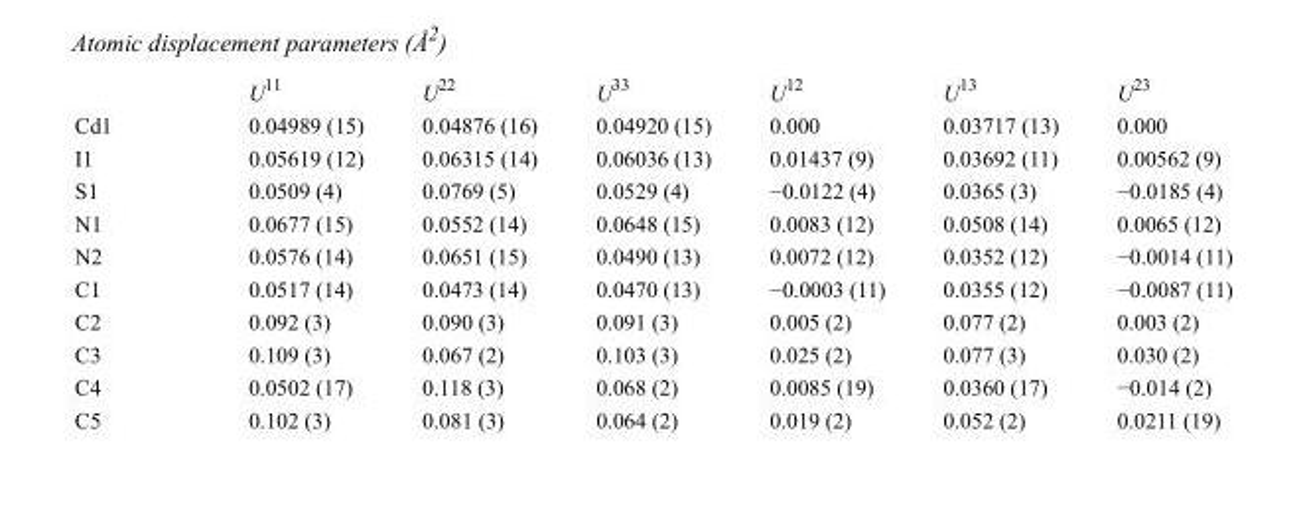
<table><thead><tr><td></td><td>U<sup>11</sup></td><td>U<sup>22</sup></td><td>U<sup>33</sup></td><td>U<sup>12</sup></td><td>U<sup>13</sup></td><td>U<sup>23</sup></td></tr></thead><tbody><tr><td>Cd1</td><td>0.04989 (15)</td><td>0.04876 (16)</td><td>0.04920 (15)</td><td>0.000</td><td>0.03717 (13)</td><td>0.000</td></tr><tr><td>I1</td><td>0.05619 (12)</td><td>0.06315 (14)</td><td>0.06036 (13)</td><td>0.01437 (9)</td><td>0.03692 (11)</td><td>0.00562 (9)</td></tr><tr><td>S1</td><td>0.0509 (4)</td><td>0.0769 (5)</td><td>0.0529 (4)</td><td>−0.0122 (4)</td><td>0.0365 (3)</td><td>−0.0185 (4)</td></tr><tr><td>N1</td><td>0.0677 (15)</td><td>0.0552 (14)</td><td>0.0648 (15)</td><td>0.0083 (12)</td><td>0.0508 (14)</td><td>0.0065 (12)</td></tr><tr><td>N2</td><td>0.0576 (14)</td><td>0.0651 (15)</td><td>0.0490 (13)</td><td>0.0072 (12)</td><td>0.0352 (12)</td><td>−0.0014 (11)</td></tr><tr><td>C1</td><td>0.0517 (14)</td><td>0.0473 (14)</td><td>0.0470 (13)</td><td>−0.0003 (11)</td><td>0.0355 (12)</td><td>−0.0087 (11)</td></tr><tr><td>C2</td><td>0.092 (3)</td><td>0.090 (3)</td><td>0.091 (3)</td><td>0.005 (2)</td><td>0.077 (2)</td><td>0.003 (2)</td></tr><tr><td>C3</td><td>0.109 (3)</td><td>0.067 (2)</td><td>0.103 (3)</td><td>0.025 (2)</td><td>0.077 (3)</td><td>0.030 (2)</td></tr><tr><td>C4</td><td>0.0502 (17)</td><td>0.118 (3)</td><td>0.068 (2)</td><td>0.0085 (19)</td><td>0.0360 (17)</td><td>−0.014 (2)</td></tr><tr><td>C5</td><td>0.102 (3)</td><td>0.081 (3)</td><td>0.064 (2)</td><td>0.019 (2)</td><td>0.052 (2)</td><td>0.0211 (19)</td></tr></tbody></table>